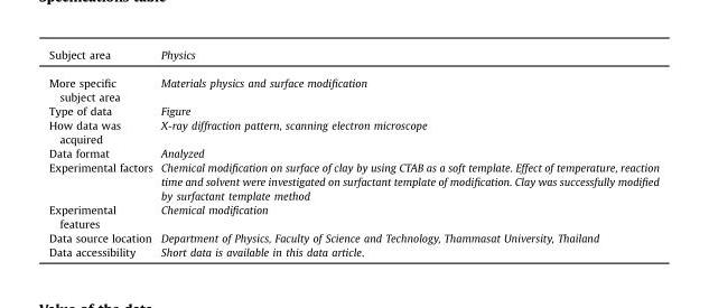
<table><tbody><tr><td>Subject area</td><td>Physics</td></tr><tr><td>More specific subject area</td><td>Materials physics and surface modification</td></tr><tr><td>Type of data</td><td>Figure</td></tr><tr><td>How data was acquired</td><td>X-ray diffraction pattern, scanning electron microscope</td></tr><tr><td>Data format</td><td>Analyzed</td></tr><tr><td>Experimental factors</td><td>Chemical modification on surface of clay by using CTAB as a soft template. Effect of temperature, reaction time and solvent were investigated on surfactant template of modification. Clay was successfully modified by surfactant template method</td></tr><tr><td>Experimental features</td><td>Chemical modification</td></tr><tr><td>Data source location</td><td>Department of Physics, Faculty of Science and Technology, Thammasat University, Thailand</td></tr><tr><td>Data accessibility</td><td>Short data is available in this data article.</td></tr></tbody></table>